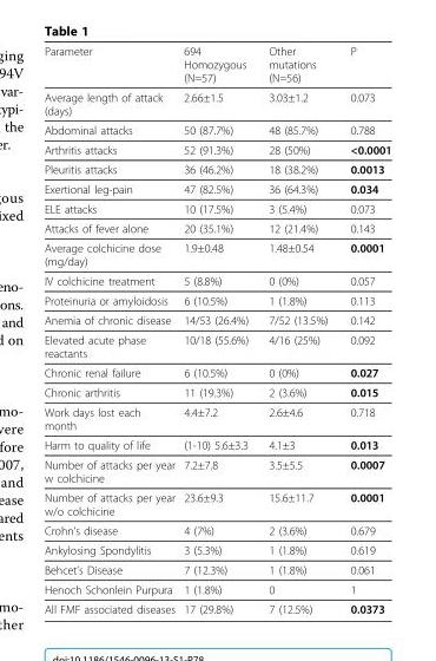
<table><thead><tr><td>Parameter</td><td>694 Homozygous (N=57)</td><td>Other mutations (N=56)</td><td>P</td></tr></thead><tbody><tr><td>Average length of attack (days)</td><td>2.66±1.5</td><td>3.03±1.2</td><td>0.073</td></tr><tr><td>Abdominal attacks</td><td>50 (87.7%)</td><td>48 (85.7%)</td><td>0.788</td></tr><tr><td>Arthritis attacks</td><td>52 (91.3%)</td><td>28 (50%)</td><td>&lt;0.0001</td></tr><tr><td>Pleuritis attacks</td><td>36 (46.2%)</td><td>18 (38.2%)</td><td>0.0013</td></tr><tr><td>Exertional leg-pain</td><td>47 (82.5%)</td><td>36 (64.3%)</td><td>0.034</td></tr><tr><td>ELE attacks</td><td>10 (17.5%)</td><td>3 (5.4%)</td><td>0.073</td></tr><tr><td>Attacks of fever alone</td><td>20 (35.1%)</td><td>12 (21.4%)</td><td>0.143</td></tr><tr><td>Average colchicine dose (mg/day)</td><td>1.9±0.48</td><td>1.48±0.54</td><td>0.0001</td></tr><tr><td>IV colchicine treatment</td><td>5 (8.8%)</td><td>0 (0%)</td><td>0.057</td></tr><tr><td>Proteinuria or amyloidosis</td><td>6 (10.5%)</td><td>1 (1.8%)</td><td>0.113</td></tr><tr><td>Anemia of chronic disease</td><td>14/53 (26.4%)</td><td>7/52 (13.5%)</td><td>0.142</td></tr><tr><td>Elevated acute phase reactants</td><td>10/18 (55.6%)</td><td>4/16 (25%)</td><td>0.092</td></tr><tr><td>Chronic renal failure</td><td>6 (10.5%)</td><td>0 (0%)</td><td>0.027</td></tr><tr><td>Chronic arthritis</td><td>11 (19.3%)</td><td>2 (3.6%)</td><td>0.015</td></tr><tr><td>Work days lost each month</td><td>4.4±7.2</td><td>2.6±4.6</td><td>0.718</td></tr><tr><td>Harm to quality of life</td><td>(1-10) 5.6±3.3</td><td>4.1±3</td><td>0.013</td></tr><tr><td>Number of attacks per year w colchicine</td><td>7.2±7.8</td><td>3.5±5.5</td><td>0.0007</td></tr><tr><td>Number of attacks per year w/o colchicine</td><td>23.6±9.3</td><td>15.6±11.7</td><td>0.0001</td></tr><tr><td>Crohn’s disease</td><td>4 (7%)</td><td>2 (3.6%)</td><td>0.679</td></tr><tr><td>Ankylosing Spondylitis</td><td>3 (5.3%)</td><td>1 (1.8%)</td><td>0.619</td></tr><tr><td>Behcet’s Disease</td><td>7 (12.3%)</td><td>1 (1.8%)</td><td>0.061</td></tr><tr><td>Henoch Schonlein Purpura</td><td>1 (1.8%)</td><td>0</td><td>1</td></tr><tr><td>All FMF associated diseases</td><td>17 (29.8%)</td><td>7 (12.5%)</td><td>0.0373</td></tr></tbody></table>